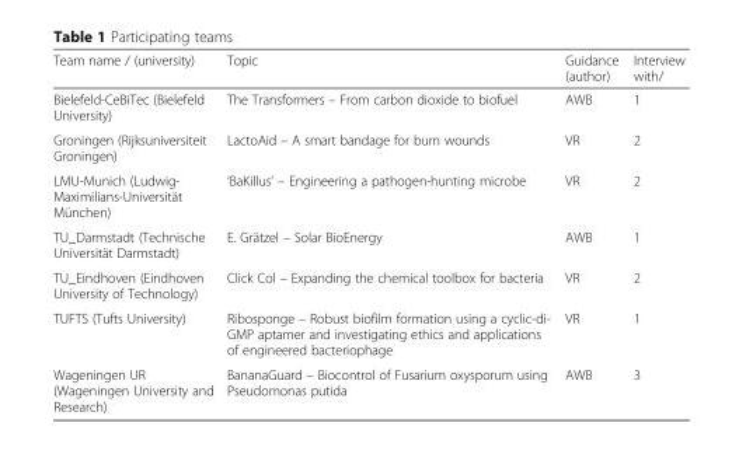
<table><thead><tr><td>Team name / (university)</td><td>Topic</td><td>Guidance (author)</td><td>Interview with/</td></tr></thead><tbody><tr><td>Bielefeld-CeBiTec (Bielefeld University)</td><td>The Transformers – From carbon dioxide to biofuel</td><td>AWB</td><td>1</td></tr><tr><td>Groningen (Rijksuniversiteit Groningen)</td><td>LactoAid – A smart bandage for burn wounds</td><td>VR</td><td>2</td></tr><tr><td>LMU-Munich (Ludwig- Maximilians-Universität München)</td><td>‘BaKillus’ – Engineering a pathogen-hunting microbe</td><td>VR</td><td>2</td></tr><tr><td>TU_Darmstadt (Technische Universität Darmstadt)</td><td>E. Grätzel – Solar BioEnergy</td><td>AWB</td><td>1</td></tr><tr><td>TU_Eindhoven (Eindhoven University of Technology)</td><td>Click Col – Expanding the chemical toolbox for bacteria</td><td>VR</td><td>2</td></tr><tr><td>TUFTS (Tufts University)</td><td>Ribosponge – Robust biofilm formation using a cyclic-di- GMP aptamer and investigating ethics and applications of engineered bacteriophage</td><td>VR</td><td>1</td></tr><tr><td>Wageningen UR (Wageningen University and Research)</td><td>BananaGuard – Biocontrol of Fusarium oxysporum using Pseudomonas putida</td><td>AWB</td><td>3</td></tr></tbody></table>